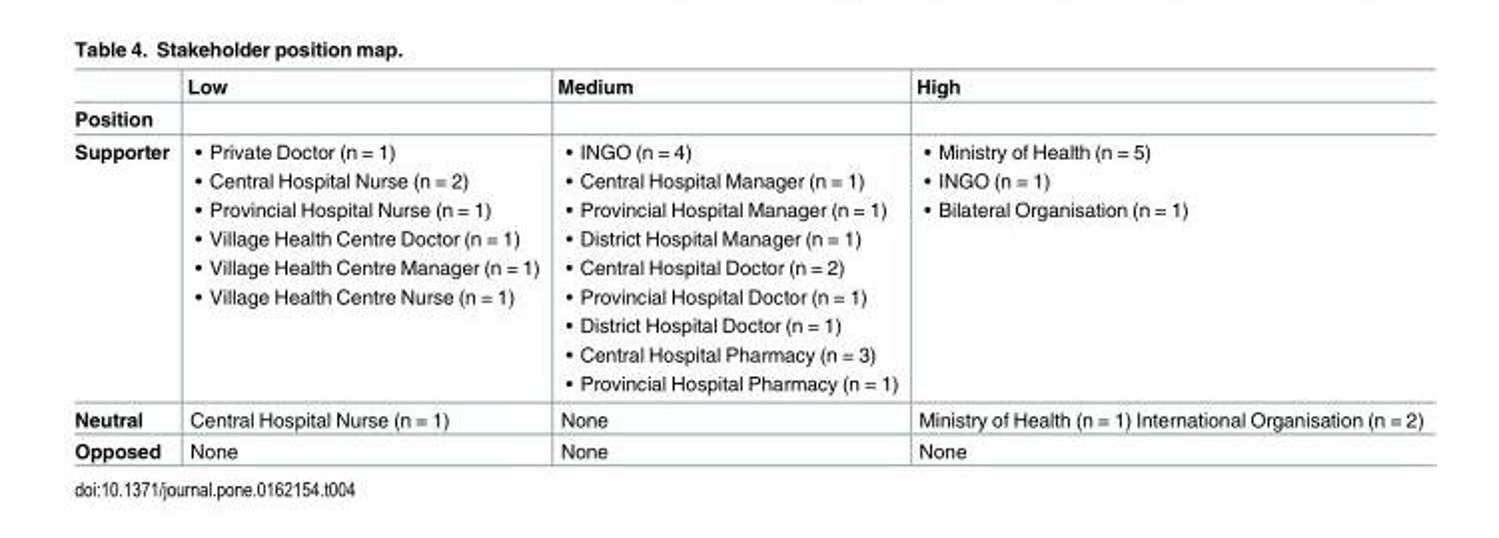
<table><thead><tr><td rowspan="2">Position</td><td rowspan="2">Low</td><td rowspan="2">Medium</td><td rowspan="2">High</td></tr><tr></tr></thead><tbody><tr><td>Supporter</td><td>• Private Doctor (n = 1) • Central Hospital Nurse (n = 2) • Provincial Hospital Nurse (n = 1) • Village Health Centre Doctor (n = 1) • Village Health Centre Manager (n = 1) • Village Health Centre Nurse (n = 1)</td><td>• INGO (n = 4) • Central Hospital Manager (n = 1) • Provincial Hospital Manager (n = 1) • District Hospital Manager (n = 1) • Central Hospital Doctor (n = 2) • Provincial Hospital Doctor (n = 1) • District Hospital Doctor (n = 1) • Central Hospital Pharmacy (n = 3) • Provincial Hospital Pharmacy (n = 1)</td><td>• Ministry of Health (n = 5) • INGO (n = 1) • Bilateral Organisation (n = 1)</td></tr><tr><td>Neutral</td><td>Central Hospital Nurse (n = 1)</td><td>None</td><td>Ministry of Health (n = 1) International Organisation (n = 2)</td></tr><tr><td>Opposed</td><td>None</td><td>None</td><td>None</td></tr></tbody></table>